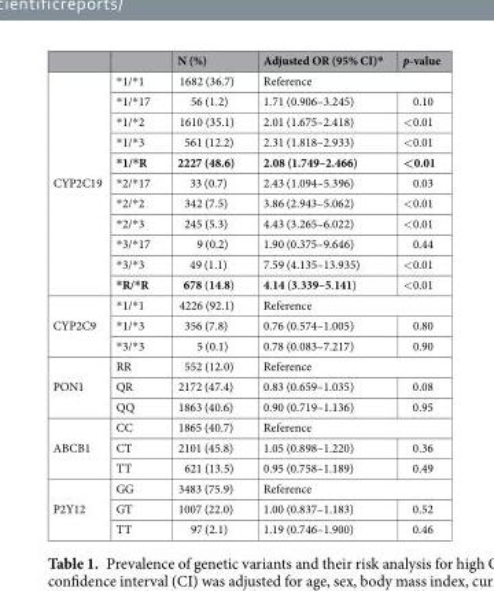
<table><thead><tr><td></td><td></td><td>N (%)</td><td>Adjusted OR (95% CI)*</td><td>p-value</td></tr></thead><tbody><tr><td rowspan="11">CYP2C19</td><td>*1/*1</td><td>1682 (36.7)</td><td colspan="2">Reference</td></tr><tr><td>*1/*17</td><td>56 (1.2)</td><td>1.71 (0.906–3.245)</td><td>0.10</td></tr><tr><td>*1/*2</td><td>1610 (35.1)</td><td>2.01 (1.675–2.418)</td><td>&lt;0.01</td></tr><tr><td>*1/*3</td><td>561 (12.2)</td><td>2.31 (1.818–2.933)</td><td>&lt;0.01</td></tr><tr><td>*1/*R</td><td>2227 (48.6)</td><td>2.08 (1.749–2.466)</td><td>&lt;0.01</td></tr><tr><td>*2/*17</td><td>33 (0.7)</td><td>2.43 (1.094–5.396)</td><td>0.03</td></tr><tr><td>*2/*2</td><td>342 (7.5)</td><td>3.86 (2.943–5.062)</td><td>&lt;0.01</td></tr><tr><td>*2/*3</td><td>245 (5.3)</td><td>4.43 (3.265–6.022)</td><td>&lt;0.01</td></tr><tr><td>*3/*17</td><td>9 (0.2)</td><td>1.90 (0.375–9.646)</td><td>0.44</td></tr><tr><td>*3/*3</td><td>49 (1.1)</td><td>7.59 (4.135–13.935)</td><td>&lt;0.01</td></tr><tr><td>*R/*R</td><td>678 (14.8)</td><td>4.14 (3.339–5.141)</td><td>&lt;0.01</td></tr><tr><td rowspan="3">CYP2C9</td><td>*1/*1</td><td>4226 (92.1)</td><td colspan="2">Reference</td></tr><tr><td>*1/*3</td><td>356 (7.8)</td><td>0.76 (0.574–1.005)</td><td>0.80</td></tr><tr><td>*3/*3</td><td>5 (0.1)</td><td>0.78 (0.083–7.217)</td><td>0.90</td></tr><tr><td rowspan="3">PON1</td><td>RR</td><td>552 (12.0)</td><td colspan="2">Reference</td></tr><tr><td>QR</td><td>2172 (47.4)</td><td>0.83 (0.659–1.035)</td><td>0.08</td></tr><tr><td>QQ</td><td>1863 (40.6)</td><td>0.90 (0.719–1.136)</td><td>0.95</td></tr><tr><td rowspan="3">ABCB1</td><td>CC</td><td>1865 (40.7)</td><td colspan="2">Reference</td></tr><tr><td>CT</td><td>2101 (45.8)</td><td>1.05 (0.898–1.220)</td><td>0.36</td></tr><tr><td>TT</td><td>621 (13.5)</td><td>0.95 (0.758–1.189)</td><td>0.49</td></tr><tr><td rowspan="3">P2Y12</td><td>GG</td><td>3483 (75.9)</td><td colspan="2">Reference</td></tr><tr><td>GT</td><td>1007 (22.0)</td><td>1.00 (0.837–1.183)</td><td>0.52</td></tr><tr><td>TT</td><td>97 (2.1)</td><td>1.19 (0.746–1.900)</td><td>0.46</td></tr></tbody></table>